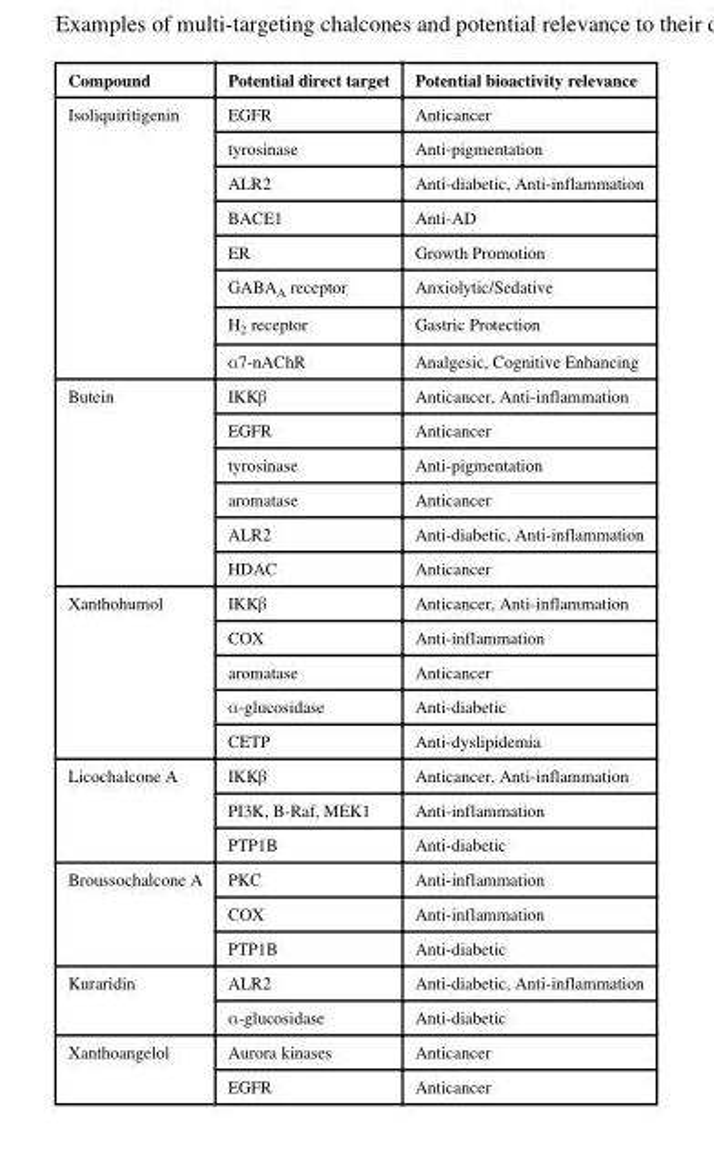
<table><thead><tr><td>Compound</td><td>Potential direct target</td><td>Potential bioactivity relevance</td></tr></thead><tbody><tr><td rowspan="8">Isoliquiritigenin</td><td>EGFR</td><td>Anticancer</td></tr><tr><td>tyrosinase</td><td>Anti-pigmentation</td></tr><tr><td>ALR2</td><td>Anti-diabetic, Anti-inflammation</td></tr><tr><td>BACE1</td><td>Anti-AD</td></tr><tr><td>ER</td><td>Growth Promotion</td></tr><tr><td>GABA<sub>A</sub> receptor</td><td>Anxiolytic/Sedative</td></tr><tr><td>H<sub>2</sub> receptor</td><td>Gastric Protection</td></tr><tr><td>α7-nAChR</td><td>Analgesic, Cognitive Enhancing</td></tr><tr><td rowspan="6">Butein</td><td>IKKβ</td><td>Anticancer, Anti-inflammation</td></tr><tr><td>EGFR</td><td>Anticancer</td></tr><tr><td>tyrosinase</td><td>Anti-pigmentation</td></tr><tr><td>aromatase</td><td>Anticancer</td></tr><tr><td>ALR2</td><td>Anti-diabetic, Anti-inflammation</td></tr><tr><td>HDAC</td><td>Anticancer</td></tr><tr><td rowspan="5">Xanthohumol</td><td>IKKβ</td><td>Anticancer, Anti-inflammation</td></tr><tr><td>COX</td><td>Anti-inflammation</td></tr><tr><td>aromatase</td><td>Anticancer</td></tr><tr><td>α-glucosidase</td><td>Anti-diabetic</td></tr><tr><td>CETP</td><td>Anti-dyslipidemia</td></tr><tr><td rowspan="3">Licochalcone A</td><td>IKKβ</td><td>Anticancer, Anti-inflammation</td></tr><tr><td>PI3K, B-Raf, MEK1</td><td>Anti-inflammation</td></tr><tr><td>PTP1B</td><td>Anti-diabetic</td></tr><tr><td rowspan="3">Broussochalcone A</td><td>PKC</td><td>Anti-inflammation</td></tr><tr><td>COX</td><td>Anti-inflammation</td></tr><tr><td>PTP1B</td><td>Anti-diabetic</td></tr><tr><td rowspan="2">Kuraridin</td><td>ALR2</td><td>Anti-diabetic, Anti-inflammation</td></tr><tr><td>α-glucosidase</td><td>Anti-diabetic</td></tr><tr><td rowspan="2">Xanthoangelol</td><td>Aurora kinases</td><td>Anticancer</td></tr><tr><td>EGFR</td><td>Anticancer</td></tr></tbody></table>